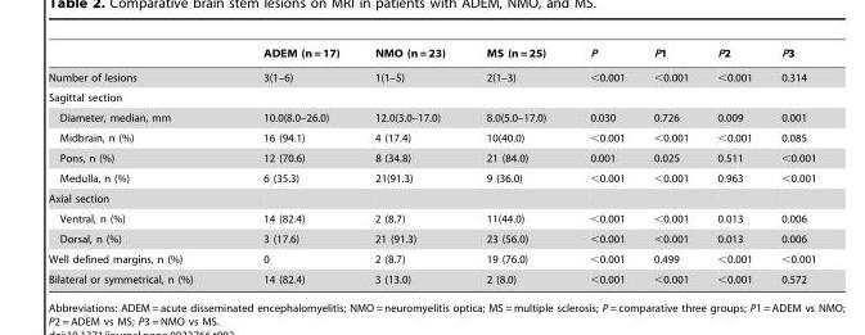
<table><thead><tr><td></td><td>ADEM (n = 17)</td><td>NMO (n = 23)</td><td>MS (n = 25)</td><td>P</td><td>P1</td><td>P2</td><td>P3</td></tr></thead><tbody><tr><td>Number of lesions</td><td>3(1–6)</td><td>1(1–5)</td><td>2(1–3)</td><td>&lt;0.001</td><td>&lt;0.001</td><td>&lt;0.001</td><td>0.314</td></tr><tr><td colspan="8">Sagittal section</td></tr><tr><td>Diameter, median, mm</td><td>10.0(8.0–26.0)</td><td>12.0(3.0–17.0)</td><td>8.0(5.0–17.0)</td><td>0.030</td><td>0.726</td><td>0.009</td><td>0.001</td></tr><tr><td>Midbrain, n (%)</td><td>16 (94.1)</td><td>4 (17.4)</td><td>10(40.0)</td><td>&lt;0.001</td><td>&lt;0.001</td><td>&lt;0.001</td><td>0.085</td></tr><tr><td>Pons, n (%)</td><td>12 (70.6)</td><td>8 (34.8)</td><td>21 (84.0)</td><td>0.001</td><td>0.025</td><td>0.511</td><td>&lt;0.001</td></tr><tr><td>Medulla, n (%)</td><td>6 (35.3)</td><td>21(91.3)</td><td>9 (36.0)</td><td>&lt;0.001</td><td>&lt;0.001</td><td>0.963</td><td>&lt;0.001</td></tr><tr><td colspan="8">Axial section</td></tr><tr><td>Ventral, n (%)</td><td>14 (82.4)</td><td>2 (8.7)</td><td>11(44.0)</td><td>&lt;0.001</td><td>&lt;0.001</td><td>0.013</td><td>0.006</td></tr><tr><td>Dorsal, n (%)</td><td>3 (17.6)</td><td>21 (91.3)</td><td>23 (56.0)</td><td>&lt;0.001</td><td>&lt;0.001</td><td>0.013</td><td>0.006</td></tr><tr><td>Well defined margins, n (%)</td><td>0</td><td>2 (8.7)</td><td>19 (76.0)</td><td>&lt;0.001</td><td>0.499</td><td>&lt;0.001</td><td>&lt;0.001</td></tr><tr><td>Bilateral or symmetrical, n (%)</td><td>14 (82.4)</td><td>3 (13.0)</td><td>2 (8.0)</td><td>&lt;0.001</td><td>&lt;0.001</td><td>&lt;0.001</td><td>0.572</td></tr></tbody></table>